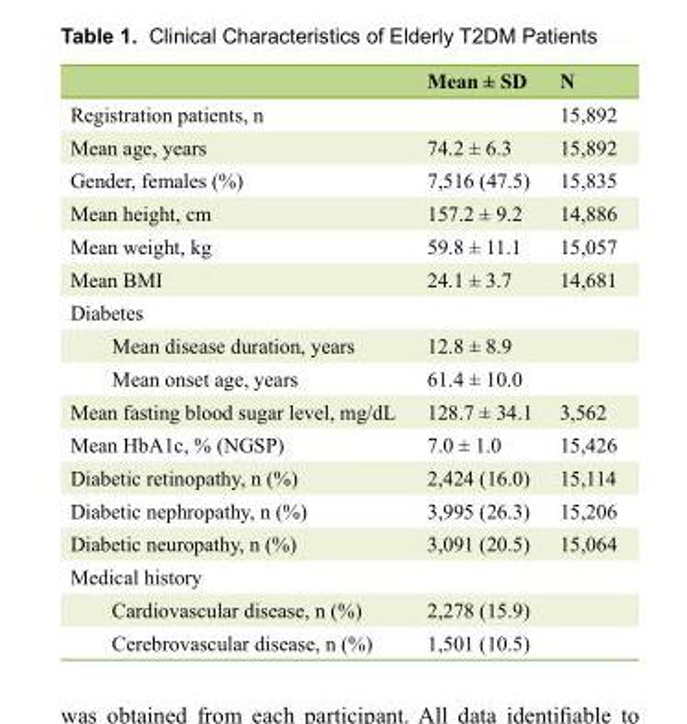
<table><thead><tr><td></td><td>Mean ± SD</td><td>N</td></tr></thead><tbody><tr><td>Registration patients, n</td><td></td><td>15,892</td></tr><tr><td>Mean age, years</td><td>74.2 ± 6.3</td><td>15,892</td></tr><tr><td>Gender, females (%)</td><td>7,516 (47.5)</td><td>15,835</td></tr><tr><td>Mean height, cm</td><td>157.2 ± 9.2</td><td>14,886</td></tr><tr><td>Mean weight, kg</td><td>59.8 ± 11.1</td><td>15,057</td></tr><tr><td>Mean BMI</td><td>24.1 ± 3.7</td><td>14,681</td></tr><tr><td colspan="3">Diabetes</td></tr><tr><td>Mean disease duration, years</td><td>12.8 ± 8.9</td><td></td></tr><tr><td>Mean onset age, years</td><td>61.4 ± 10.0</td><td></td></tr><tr><td>Mean fasting blood sugar level, mg/dL</td><td>128.7 ± 34.1</td><td>3,562</td></tr><tr><td>Mean HbA1c, % (NGSP)</td><td>7.0 ± 1.0</td><td>15,426</td></tr><tr><td>Diabetic retinopathy, n (%)</td><td>2,424 (16.0)</td><td>15,114</td></tr><tr><td>Diabetic nephropathy, n (%)</td><td>3,995 (26.3)</td><td>15,206</td></tr><tr><td>Diabetic neuropathy, n (%)</td><td>3,091 (20.5)</td><td>15,064</td></tr><tr><td colspan="3">Medical history</td></tr><tr><td>Cardiovascular disease, n (%)</td><td>2,278 (15.9)</td><td></td></tr><tr><td>Cerebrovascular disease, n (%)</td><td>1,501 (10.5)</td><td></td></tr></tbody></table>